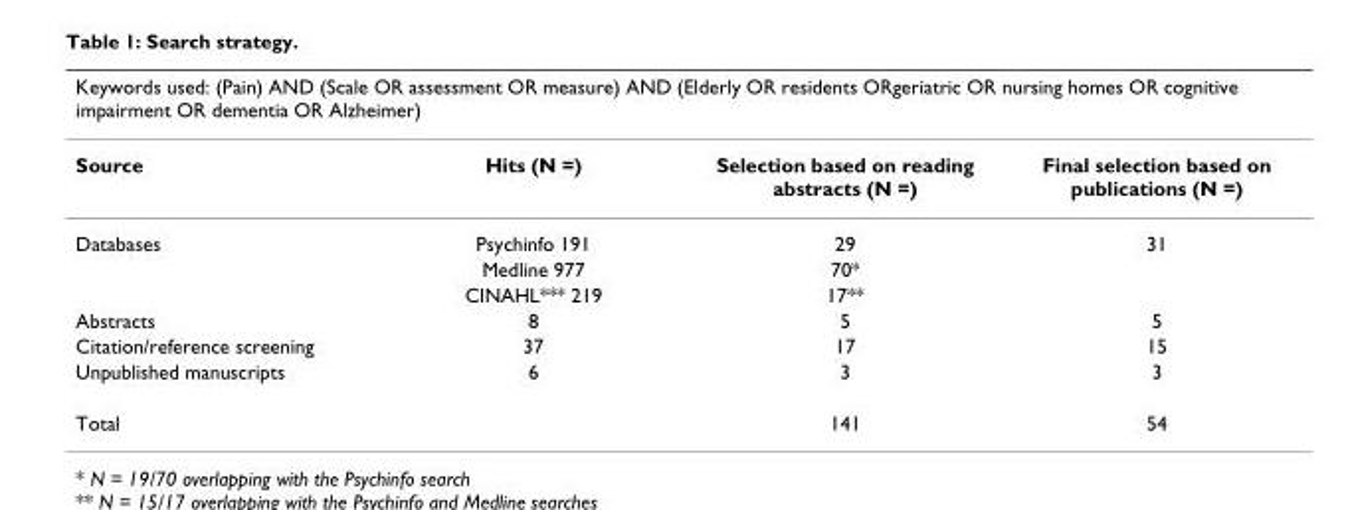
<table><thead><tr><td colspan="4">Keywords used: (Pain) AND (Scale OR assessment OR measure) AND (Elderly OR residents ORgeriatric OR nursing homes OR cognitive impairment OR dementia OR Alzheimer)</td></tr><tr><td>Source</td><td>Hits (N =)</td><td>Selection based on reading abstracts (N =)</td><td>Final selection based on publications (N =)</td></tr></thead><tbody><tr><td rowspan="3">Databases</td><td>Psychinfo 191</td><td>29</td><td>31</td></tr><tr><td>Medline 977</td><td>70*</td><td></td></tr><tr><td>CINAHL*** 219</td><td>17**</td><td></td></tr><tr><td>Abstracts</td><td>8</td><td>5</td><td>5</td></tr><tr><td>Citation/reference screening</td><td>37</td><td>17</td><td>15</td></tr><tr><td>Unpublished manuscripts</td><td>6</td><td>3</td><td>3</td></tr><tr><td>Total</td><td></td><td>141</td><td>54</td></tr></tbody></table>